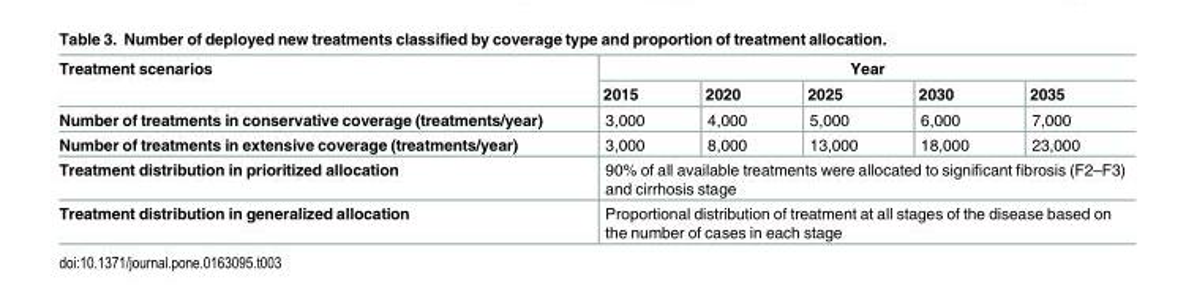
<table><thead><tr><td rowspan="2">Treatment scenarios</td><td colspan="5">Year</td></tr><tr><td>2015</td><td>2020</td><td>2025</td><td>2030</td><td>2035</td></tr></thead><tbody><tr><td>Number of treatments in conservative coverage (treatments/year)</td><td>3,000</td><td>4,000</td><td>5,000</td><td>6,000</td><td>7,000</td></tr><tr><td>Number of treatments in extensive coverage (treatments/year)</td><td>3,000</td><td>8,000</td><td>13,000</td><td>18,000</td><td>23,000</td></tr><tr><td>Treatment distribution in prioritized allocation</td><td colspan="5">90% of all available treatments were allocated to significant fibrosis (F2–F3) and cirrhosis stage</td></tr><tr><td>Treatment distribution in generalized allocation</td><td colspan="5">Proportional distribution of treatment at all stages of the disease based on the number of cases in each stage</td></tr></tbody></table>